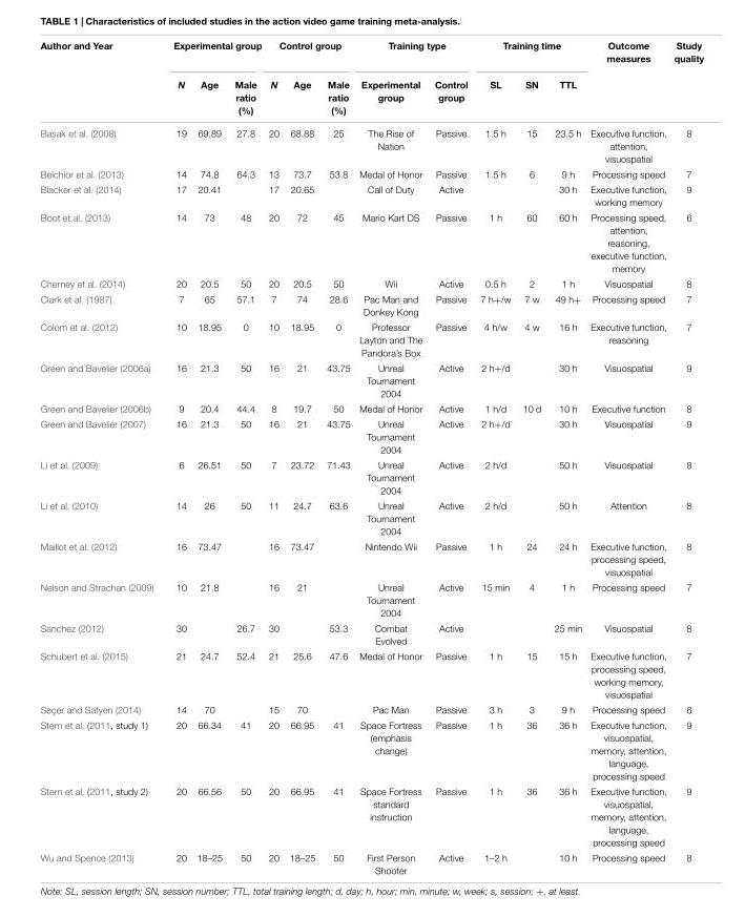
<table><thead><tr><td rowspan="2">Author and Year</td><td colspan="3">Experimental group</td><td colspan="3">Control group</td><td colspan="2">Training type</td><td colspan="3">Training time</td><td rowspan="2">Outcome measures</td><td rowspan="2">Study quality</td></tr><tr><td>N</td><td>Age</td><td>Male ratio (%)</td><td>N</td><td>Age</td><td>Male ratio (%)</td><td>Experimental group</td><td>Control group</td><td>SL</td><td>SN</td><td>TTL</td></tr></thead><tbody><tr><td>Basak et al. (2008)</td><td>19</td><td>69.89</td><td>27.8</td><td>20</td><td>68.88</td><td>25</td><td>The Rise of Nation</td><td>Passive</td><td>1.5 h</td><td>15</td><td>23.5 h</td><td>Executive function, attention, visuospatial</td><td>8</td></tr><tr><td>Belchior et al. (2013)</td><td>14</td><td>74.8</td><td>64.3</td><td>13</td><td>73.7</td><td>53.8</td><td>Medal of Honor</td><td>Passive</td><td>1.5 h</td><td>6</td><td>9 h</td><td>Processing speed</td><td>7</td></tr><tr><td>Blacker et al. (2014)</td><td>17</td><td>20.41</td><td></td><td>17</td><td>20.65</td><td></td><td>Call of Duty</td><td>Active</td><td></td><td></td><td>30 h</td><td>Executive function, working memory</td><td>9</td></tr><tr><td>Boot et al. (2013)</td><td>14</td><td>73</td><td>48</td><td>20</td><td>72</td><td>45</td><td>Mario Kart DS</td><td>Passive</td><td>1 h</td><td>60</td><td>60 h</td><td>Processing speed, attention, reasoning, executive function, memory</td><td>6</td></tr><tr><td>Cherney et al. (2014)</td><td>20</td><td>20.5</td><td>50</td><td>20</td><td>20.5</td><td>50</td><td>Wii</td><td>Active</td><td>0.5 h</td><td>2</td><td>1 h</td><td>Visuospatial</td><td>8</td></tr><tr><td>Clark et al. (1987)</td><td>7</td><td>65</td><td>57.1</td><td>7</td><td>74</td><td>28.6</td><td>Pac Man and Donkey Kong</td><td>Passive</td><td>7 h+/w</td><td>7 w</td><td>49 h+</td><td>Processing speed</td><td>7</td></tr><tr><td>Colom et al. (2012)</td><td>10</td><td>18.95</td><td>0</td><td>10</td><td>18.95</td><td>0</td><td>Professor Layton and The Pandora’s Box</td><td>Passive</td><td>4 h/w</td><td>4 w</td><td>16 h</td><td>Executive function, reasoning</td><td>7</td></tr><tr><td>Green and Bavelier (2006a)</td><td>16</td><td>21.3</td><td>50</td><td>16</td><td>21</td><td>43.75</td><td>Unreal Tournament 2004</td><td>Active</td><td>2 h+/d</td><td></td><td>30 h</td><td>Visuospatial</td><td>9</td></tr><tr><td>Green and Bavelier (2006b)</td><td>9</td><td>20.4</td><td>44.4</td><td>8</td><td>19.7</td><td>50</td><td>Medal of Honor</td><td>Active</td><td>1 h/d</td><td>10 d</td><td>10 h</td><td>Executive function</td><td>8</td></tr><tr><td>Green and Bavelier (2007)</td><td>16</td><td>21.3</td><td>50</td><td>16</td><td>21</td><td>43.75</td><td>Unreal Tournament 2004</td><td>Active</td><td>2 h+/d</td><td></td><td>30 h</td><td>Visuospatial</td><td>9</td></tr><tr><td>Li et al. (2009)</td><td>6</td><td>26.51</td><td>50</td><td>7</td><td>23.72</td><td>71.43</td><td>Unreal Tournament 2004</td><td>Active</td><td>2 h/d</td><td></td><td>50 h</td><td>Visuospatial</td><td>8</td></tr><tr><td>Li et al. (2010)</td><td>14</td><td>26</td><td>50</td><td>11</td><td>24.7</td><td>63.6</td><td>Unreal Tournament 2004</td><td>Active</td><td>2 h/d</td><td></td><td>50 h</td><td>Attention</td><td>8</td></tr><tr><td>Maillot et al. (2012)</td><td>16</td><td>73.47</td><td></td><td>16</td><td>73.47</td><td></td><td>Nintendo Wii</td><td>Passive</td><td>1 h</td><td>24</td><td>24 h</td><td>Executive function, processing speed, visuospatial</td><td>8</td></tr><tr><td>Nelson and Strachan (2009)</td><td>10</td><td>21.8</td><td></td><td>16</td><td>21</td><td></td><td>Unreal Tournament 2004</td><td>Active</td><td>15 min</td><td>4</td><td>1 h</td><td>Processing speed</td><td>7</td></tr><tr><td>Sanchez (2012)</td><td>30</td><td></td><td>26.7</td><td>30</td><td></td><td>53.3</td><td>Combat Evolved</td><td>Active</td><td></td><td></td><td>25 min</td><td>Visuospatial</td><td>8</td></tr><tr><td>Schubert et al. (2015)</td><td>21</td><td>24.7</td><td>52.4</td><td>21</td><td>25.6</td><td>47.6</td><td>Medal of Honor</td><td>Passive</td><td>1 h</td><td>15</td><td>15 h</td><td>Executive function, processing speed, working memory, visuospatial</td><td>7</td></tr><tr><td>Seçer and Satyen (2014)</td><td>14</td><td>70</td><td></td><td>15</td><td>70</td><td></td><td>Pac Man</td><td>Passive</td><td>3 h</td><td>3</td><td>9 h</td><td>Processing speed</td><td>6</td></tr><tr><td>Stern et al. (2011, study 1)</td><td>20</td><td>66.34</td><td>41</td><td>20</td><td>66.95</td><td>41</td><td>Space Fortress (emphasis change)</td><td>Passive</td><td>1 h</td><td>36</td><td>36 h</td><td>Executive function, visuospatial, memory, attention, language, processing speed</td><td>9</td></tr><tr><td>Stern et al. (2011, study 2)</td><td>20</td><td>66.56</td><td>50</td><td>20</td><td>66.95</td><td>41</td><td>Space Fortress standard instruction</td><td>Passive</td><td>1 h</td><td>36</td><td>36 h</td><td>Executive function, visuospatial, memory, attention, language, processing speed</td><td>9</td></tr><tr><td>Wu and Spence (2013)</td><td>20</td><td>18–25</td><td>50</td><td>20</td><td>18–25</td><td>50</td><td>First Person Shooter</td><td>Active</td><td>1–2 h</td><td></td><td>10 h</td><td>Processing speed</td><td>8</td></tr></tbody></table>